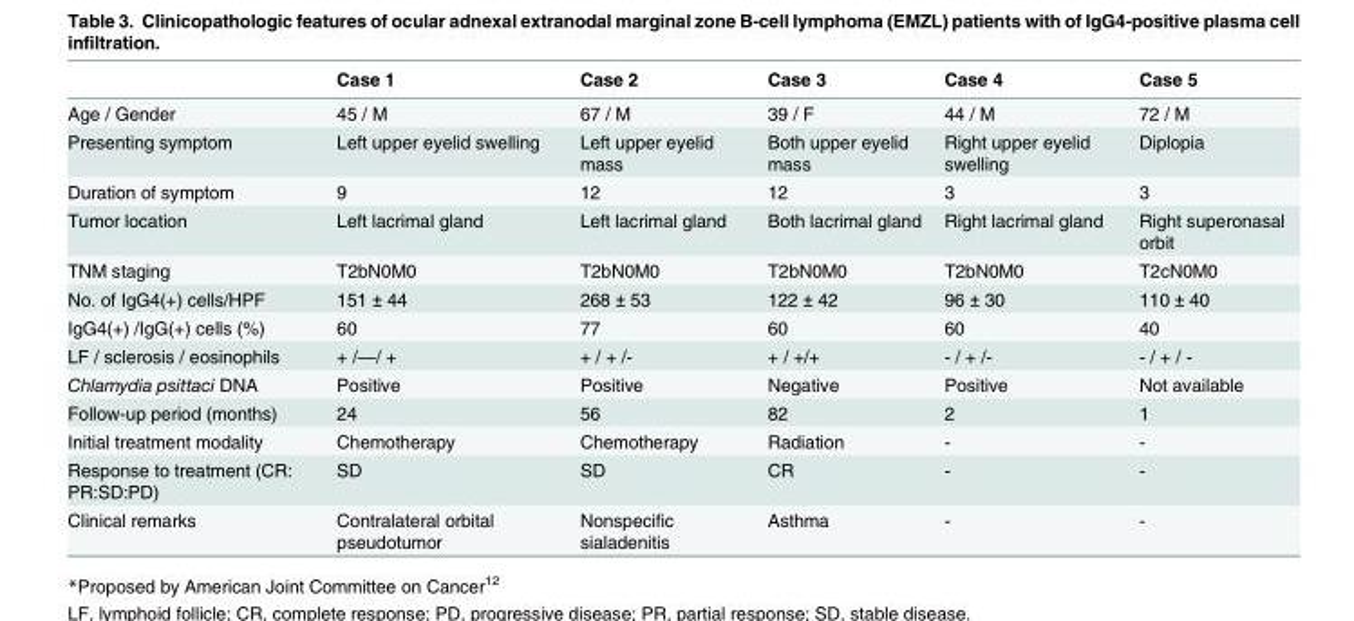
<table><thead><tr><td></td><td>Case 1</td><td>Case 2</td><td>Case 3</td><td>Case 4</td><td>Case 5</td></tr></thead><tbody><tr><td>Age / Gender</td><td>45 / M</td><td>67 / M</td><td>39 / F</td><td>44 / M</td><td>72 / M</td></tr><tr><td>Presenting symptom</td><td>Left upper eyelid swelling</td><td>Left upper eyelid mass</td><td>Both upper eyelid mass</td><td>Right upper eyelid swelling</td><td>Diplopia</td></tr><tr><td>Duration of symptom</td><td>9</td><td>12</td><td>12</td><td>3</td><td>3</td></tr><tr><td>Tumor location</td><td>Left lacrimal gland</td><td>Left lacrimal gland</td><td>Both lacrimal gland</td><td>Right lacrimal gland</td><td>Right superonasal orbit</td></tr><tr><td>TNM staging</td><td>T2bN0M0</td><td>T2bN0M0</td><td>T2bN0M0</td><td>T2bN0M0</td><td>T2cN0M0</td></tr><tr><td>No. of IgG4(+) cells/HPF</td><td>151 ± 44</td><td>268 ± 53</td><td>122 ± 42</td><td>96 ± 30</td><td>110 ± 40</td></tr><tr><td>IgG4(+) /IgG(+) cells (%)</td><td>60</td><td>77</td><td>60</td><td>60</td><td>40</td></tr><tr><td>LF / sclerosis / eosinophils</td><td>+ /—/ +</td><td>+ / + /-</td><td>+ / +/+</td><td>- / + /-</td><td>- / + / -</td></tr><tr><td>Chlamydia psittaci DNA</td><td>Positive</td><td>Positive</td><td>Negative</td><td>Positive</td><td>Not available</td></tr><tr><td>Follow-up period (months)</td><td>24</td><td>56</td><td>82</td><td>2</td><td>1</td></tr><tr><td>Initial treatment modality</td><td>Chemotherapy</td><td>Chemotherapy</td><td>Radiation</td><td>-</td><td>-</td></tr><tr><td>Response to treatment (CR: PR:SD:PD)</td><td>SD</td><td>SD</td><td>CR</td><td>-</td><td>-</td></tr><tr><td>Clinical remarks</td><td>Contralateral orbital pseudotumor</td><td>Nonspecific sialadenitis</td><td>Asthma</td><td>-</td><td>-</td></tr></tbody></table>